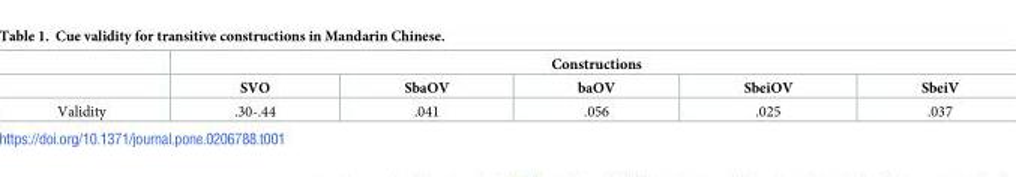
<table><thead><tr><td rowspan="2"></td><td colspan="5">Constructions</td></tr><tr><td>SVO</td><td>SbaOV</td><td>baOV</td><td>SbeiOV</td><td>SbeiV</td></tr></thead><tbody><tr><td>Validity</td><td>.30-.44</td><td>.041</td><td>.056</td><td>.025</td><td>.037</td></tr></tbody></table>